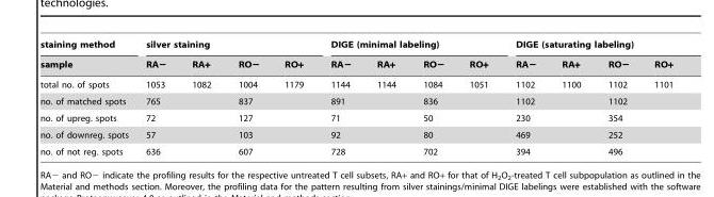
<table><thead><tr><td rowspan="2">staining method sample</td><td colspan="4">silver staining</td><td colspan="4">DIGE (minimal labeling)</td><td colspan="4">DIGE (saturating labeling)</td></tr><tr><td>RA−</td><td>RA+</td><td>RO−</td><td>RO+</td><td>RA−</td><td>RA+</td><td>RO−</td><td>RO+</td><td>RA−</td><td>RA+</td><td>RO−</td><td>RO+</td></tr></thead><tbody><tr><td>total no. of spots</td><td>1053</td><td>1082</td><td>1004</td><td>1179</td><td>1144</td><td>1144</td><td>1084</td><td>1051</td><td>1102</td><td>1100</td><td>1102</td><td>1101</td></tr><tr><td>no. of matched spots</td><td colspan="2">765</td><td colspan="2">837</td><td colspan="2">891</td><td colspan="2">836</td><td colspan="2">1102</td><td colspan="2">1102</td></tr><tr><td>no. of upreg. spots</td><td colspan="2">72</td><td colspan="2">127</td><td colspan="2">71</td><td colspan="2">50</td><td colspan="2">230</td><td colspan="2">354</td></tr><tr><td>no. of downreg. spots</td><td colspan="2">57</td><td colspan="2">103</td><td colspan="2">92</td><td colspan="2">80</td><td colspan="2">469</td><td colspan="2">252</td></tr><tr><td>no. of not reg. spots</td><td colspan="2">636</td><td colspan="2">607</td><td colspan="2">728</td><td colspan="2">702</td><td colspan="2">394</td><td colspan="2">496</td></tr></tbody></table>